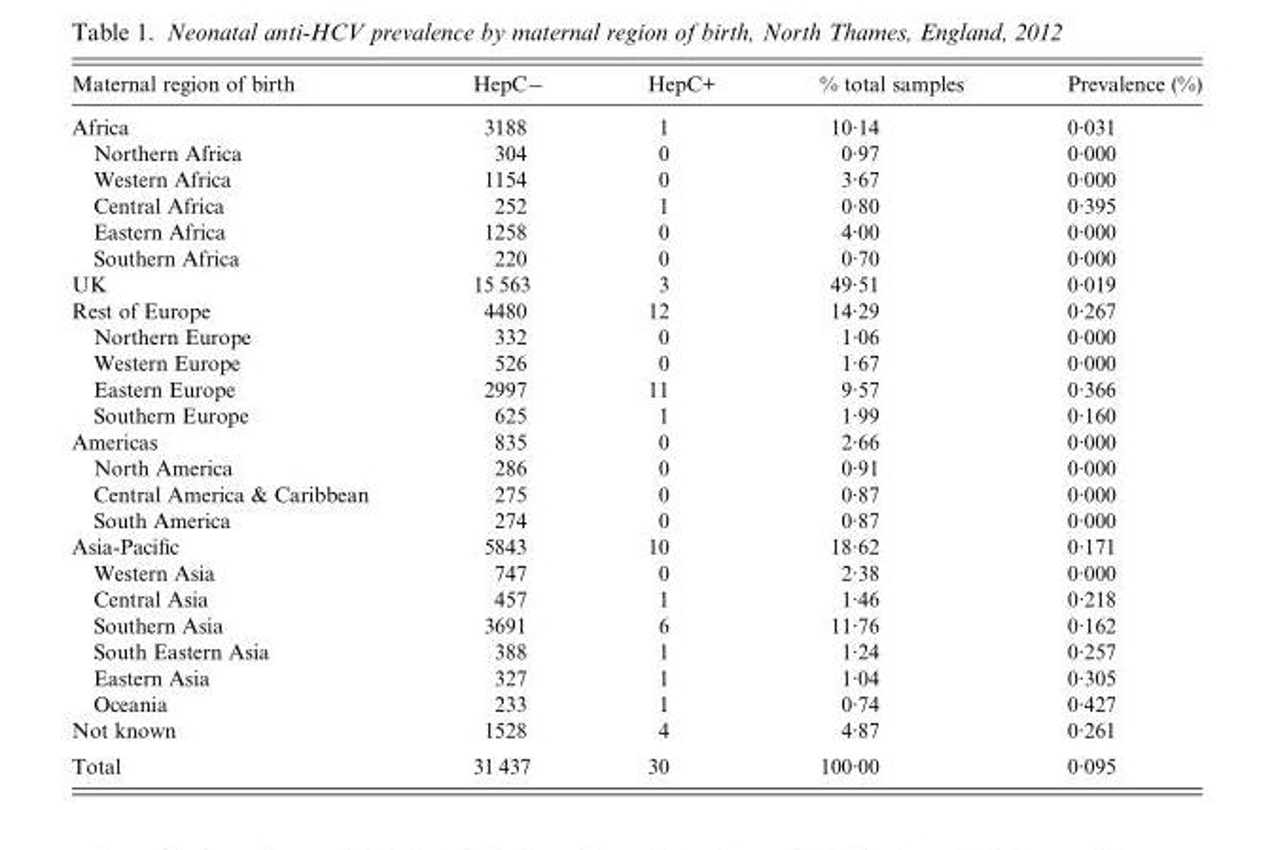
<table><thead><tr><td>Maternal region of birth</td><td>HepC−</td><td>HepC+</td><td>% total samples</td><td>Prevalence (%)</td></tr></thead><tbody><tr><td>Africa</td><td>3188</td><td>1</td><td>10·14</td><td>0·031</td></tr><tr><td>Northern Africa</td><td>304</td><td>0</td><td>0·97</td><td>0·000</td></tr><tr><td>Western Africa</td><td>1154</td><td>0</td><td>3·67</td><td>0·000</td></tr><tr><td>Central Africa</td><td>252</td><td>1</td><td>0·80</td><td>0·395</td></tr><tr><td>Eastern Africa</td><td>1258</td><td>0</td><td>4·00</td><td>0·000</td></tr><tr><td>Southern Africa</td><td>220</td><td>0</td><td>0·70</td><td>0·000</td></tr><tr><td>UK</td><td>15 563</td><td>3</td><td>49·51</td><td>0·019</td></tr><tr><td>Rest of Europe</td><td>4480</td><td>12</td><td>14·29</td><td>0·267</td></tr><tr><td>Northern Europe</td><td>332</td><td>0</td><td>1·06</td><td>0·000</td></tr><tr><td>Western Europe</td><td>526</td><td>0</td><td>1·67</td><td>0·000</td></tr><tr><td>Eastern Europe</td><td>2997</td><td>11</td><td>9·57</td><td>0·366</td></tr><tr><td>Southern Europe</td><td>625</td><td>1</td><td>1·99</td><td>0·160</td></tr><tr><td>Americas</td><td>835</td><td>0</td><td>2·66</td><td>0·000</td></tr><tr><td>North America</td><td>286</td><td>0</td><td>0·91</td><td>0·000</td></tr><tr><td>Central America &amp; Caribbean</td><td>275</td><td>0</td><td>0·87</td><td>0·000</td></tr><tr><td>South America</td><td>274</td><td>0</td><td>0·87</td><td>0·000</td></tr><tr><td>Asia-Pacific</td><td>5843</td><td>10</td><td>18·62</td><td>0·171</td></tr><tr><td>Western Asia</td><td>747</td><td>0</td><td>2·38</td><td>0·000</td></tr><tr><td>Central Asia</td><td>457</td><td>1</td><td>1·46</td><td>0·218</td></tr><tr><td>Southern Asia</td><td>3691</td><td>6</td><td>11·76</td><td>0·162</td></tr><tr><td>South Eastern Asia</td><td>388</td><td>1</td><td>1·24</td><td>0·257</td></tr><tr><td>Eastern Asia</td><td>327</td><td>1</td><td>1·04</td><td>0·305</td></tr><tr><td>Oceania</td><td>233</td><td>1</td><td>0·74</td><td>0·427</td></tr><tr><td>Not known</td><td>1528</td><td>4</td><td>4·87</td><td>0·261</td></tr><tr><td>Total</td><td>31 437</td><td>30</td><td>100·00</td><td>0·095</td></tr></tbody></table>